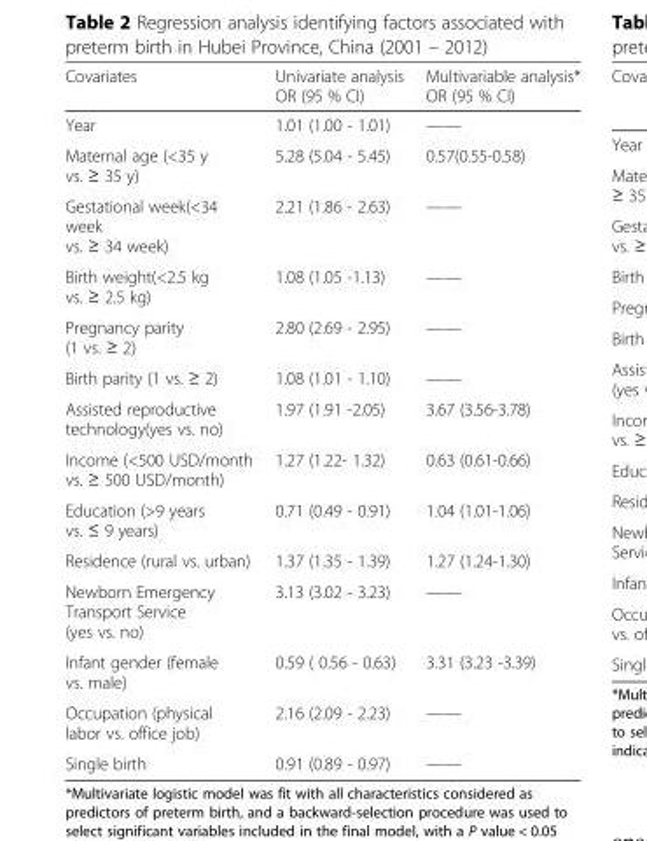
<table><thead><tr><td>Covariates</td><td>Univariate analysis OR (95 % CI)</td><td>Multivariable analysis* OR (95 % CI)</td></tr></thead><tbody><tr><td>Year</td><td>1.01 (1.00 - 1.01)</td><td>——</td></tr><tr><td>Maternal age (&lt;35 y vs. ≥ 35 y)</td><td>5.28 (5.04 - 5.45)</td><td>0.57(0.55-0.58)</td></tr><tr><td>Gestational week(&lt;34 week vs. ≥ 34 week)</td><td>2.21 (1.86 - 2.63)</td><td>——</td></tr><tr><td>Birth weight(&lt;2.5 kg vs. ≥ 2.5 kg)</td><td>1.08 (1.05 -1.13)</td><td>——</td></tr><tr><td>Pregnancy parity (1 vs. ≥ 2)</td><td>2.80 (2.69 - 2.95)</td><td>——</td></tr><tr><td>Birth parity (1 vs. ≥ 2)</td><td>1.08 (1.01 - 1.10)</td><td>——</td></tr><tr><td>Assisted reproductive technology(yes vs. no)</td><td>1.97 (1.91 -2.05)</td><td>3.67 (3.56-3.78)</td></tr><tr><td>Income (&lt;500 USD/month vs. ≥ 500 USD/month)</td><td>1.27 (1.22- 1.32)</td><td>0.63 (0.61-0.66)</td></tr><tr><td>Education (&gt;9 years vs. ≤ 9 years)</td><td>0.71 (0.49 - 0.91)</td><td>1.04 (1.01-1.06)</td></tr><tr><td>Residence (rural vs. urban)</td><td>1.37 (1.35 - 1.39)</td><td>1.27 (1.24-1.30)</td></tr><tr><td>Newborn Emergency Transport Service (yes vs. no)</td><td>3.13 (3.02 - 3.23)</td><td>——</td></tr><tr><td>Infant gender (female vs. male)</td><td>0.59 ( 0.56 - 0.63)</td><td>3.31 (3.23 -3.39)</td></tr><tr><td>Occupation (physical labor vs. office job)</td><td>2.16 (2.09 - 2.23)</td><td>——</td></tr><tr><td>Single birth</td><td>0.91 (0.89 - 0.97)</td><td>——</td></tr></tbody></table>